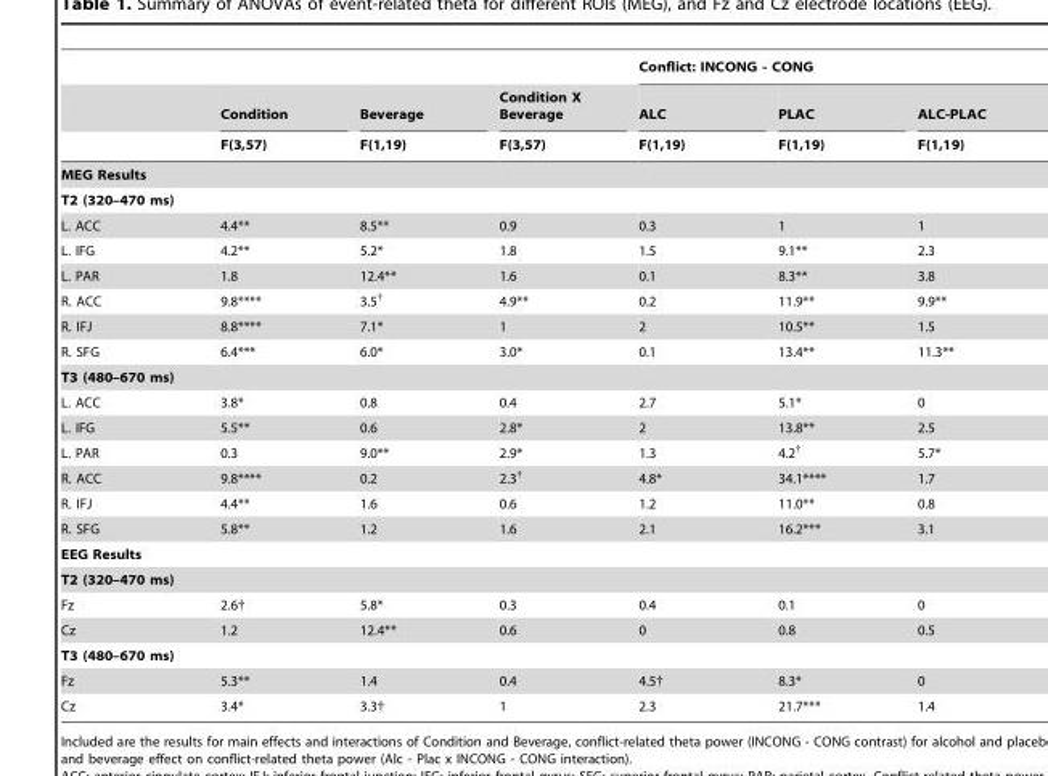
<table><thead><tr><td rowspan="3"></td><td rowspan="3">Condition F(3,57)</td><td rowspan="3">Beverage F(1,19)</td><td rowspan="3">Condition X Beverage F(3,57)</td><td colspan="3">Conflict: INCONG - CONG</td></tr><tr><td rowspan="2">ALC F(1,19)</td><td rowspan="2">PLAC F(1,19)</td><td rowspan="2">ALC-PLAC F(1,19)</td></tr><tr></tr></thead><tbody><tr><td colspan="7">MEG Results</td></tr><tr><td colspan="7">T2 (320–470 ms)</td></tr><tr><td>L. ACC</td><td>4.4**</td><td>8.5**</td><td>0.9</td><td>0.3</td><td>1</td><td>1</td></tr><tr><td>L. IFG</td><td>4.2**</td><td>5.2*</td><td>1.8</td><td>1.5</td><td>9.1**</td><td>2.3</td></tr><tr><td>L. PAR</td><td>1.8</td><td>12.4**</td><td>1.6</td><td>0.1</td><td>8.3**</td><td>3.8</td></tr><tr><td>R. ACC</td><td>9.8****</td><td>3.5†</td><td>4.9**</td><td>0.2</td><td>11.9**</td><td>9.9**</td></tr><tr><td>R. IFJ</td><td>8.8****</td><td>7.1*</td><td>1</td><td>2</td><td>10.5**</td><td>1.5</td></tr><tr><td>R. SFG</td><td>6.4***</td><td>6.0*</td><td>3.0*</td><td>0.1</td><td>13.4**</td><td>11.3**</td></tr><tr><td colspan="7">T3 (480–670 ms)</td></tr><tr><td>L. ACC</td><td>3.8*</td><td>0.8</td><td>0.4</td><td>2.7</td><td>5.1*</td><td>0</td></tr><tr><td>L. IFG</td><td>5.5**</td><td>0.6</td><td>2.8*</td><td>2</td><td>13.8**</td><td>2.5</td></tr><tr><td>L. PAR</td><td>0.3</td><td>9.0**</td><td>2.9*</td><td>1.3</td><td>4.2†</td><td>5.7*</td></tr><tr><td>R. ACC</td><td>9.8****</td><td>0.2</td><td>2.3†</td><td>4.8*</td><td>34.1****</td><td>1.7</td></tr><tr><td>R. IFJ</td><td>4.4**</td><td>1.6</td><td>0.6</td><td>1.2</td><td>11.0**</td><td>0.8</td></tr><tr><td>R. SFG</td><td>5.8**</td><td>1.2</td><td>1.6</td><td>2.1</td><td>16.2***</td><td>3.1</td></tr><tr><td colspan="7">EEG Results</td></tr><tr><td colspan="7">T2 (320–470 ms)</td></tr><tr><td>Fz</td><td>2.6†</td><td>5.8*</td><td>0.3</td><td>0.4</td><td>0.1</td><td>0</td></tr><tr><td>Cz</td><td>1.2</td><td>12.4**</td><td>0.6</td><td>0</td><td>0.8</td><td>0.5</td></tr><tr><td colspan="7">T3 (480–670 ms)</td></tr><tr><td>Fz</td><td>5.3**</td><td>1.4</td><td>0.4</td><td>4.5†</td><td>8.3*</td><td>0</td></tr><tr><td>Cz</td><td>3.4*</td><td>3.3†</td><td>1</td><td>2.3</td><td>21.7***</td><td>1.4</td></tr></tbody></table>